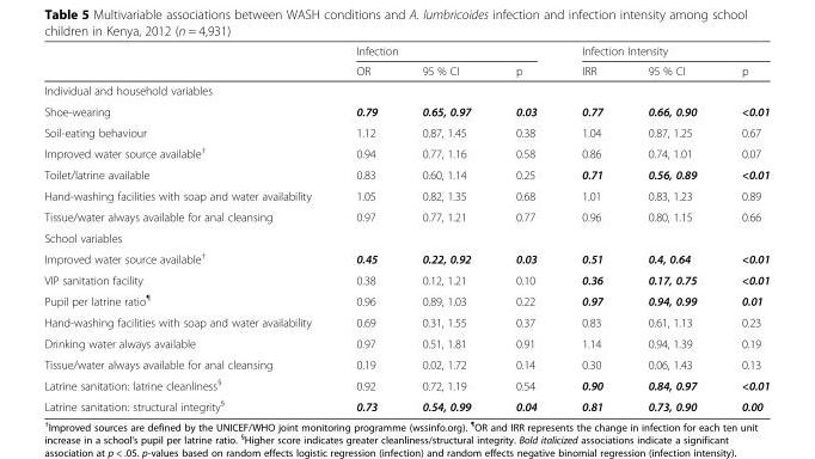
<table><thead><tr><td rowspan="2"></td><td colspan="3">Infection</td><td colspan="3">Infection Intensity</td></tr><tr><td>OR</td><td>95 % CI</td><td>p</td><td>IRR</td><td>95 % CI</td><td>p</td></tr></thead><tbody><tr><td colspan="7">Individual and household variables</td></tr><tr><td>Shoe-wearing</td><td>0.79</td><td>0.65, 0.97</td><td>0.03</td><td>0.77</td><td>0.66, 0.90</td><td>&lt;0.01</td></tr><tr><td>Soil-eating behaviour</td><td>1.12</td><td>0.87, 1.45</td><td>0.38</td><td>1.04</td><td>0.87, 1.25</td><td>0.67</td></tr><tr><td>Improved water source available<sup>†</sup></td><td>0.94</td><td>0.77, 1.16</td><td>0.58</td><td>0.86</td><td>0.74, 1.01</td><td>0.07</td></tr><tr><td>Toilet/latrine available</td><td>0.83</td><td>0.60, 1.14</td><td>0.25</td><td>0.71</td><td>0.56, 0.89</td><td>&lt;0.01</td></tr><tr><td>Hand-washing facilities with soap and water availability</td><td>1.05</td><td>0.82, 1.35</td><td>0.68</td><td>1.01</td><td>0.83, 1.23</td><td>0.89</td></tr><tr><td>Tissue/water always available for anal cleansing</td><td>0.97</td><td>0.77, 1.21</td><td>0.77</td><td>0.96</td><td>0.80, 1.15</td><td>0.66</td></tr><tr><td colspan="7">School variables</td></tr><tr><td>Improved water source available<sup>†</sup></td><td>0.45</td><td>0.22, 0.92</td><td>0.03</td><td>0.51</td><td>0.4, 0.64</td><td>&lt;0.01</td></tr><tr><td>VIP sanitation facility</td><td>0.38</td><td>0.12, 1.21</td><td>0.10</td><td>0.36</td><td>0.17, 0.75</td><td>&lt;0.01</td></tr><tr><td>Pupil per latrine ratio<sup>¶</sup></td><td>0.96</td><td>0.89, 1.03</td><td>0.22</td><td>0.97</td><td>0.94, 0.99</td><td>0.01</td></tr><tr><td>Hand-washing facilities with soap and water availability</td><td>0.69</td><td>0.31, 1.55</td><td>0.37</td><td>0.83</td><td>0.61, 1.13</td><td>0.23</td></tr><tr><td>Drinking water always available</td><td>0.97</td><td>0.51, 1.81</td><td>0.91</td><td>1.14</td><td>0.94, 1.39</td><td>0.19</td></tr><tr><td>Tissue/water always available for anal cleansing</td><td>0.19</td><td>0.02, 1.72</td><td>0.14</td><td>0.30</td><td>0.06, 1.43</td><td>0.13</td></tr><tr><td>Latrine sanitation: latrine cleanliness<sup>§</sup></td><td>0.92</td><td>0.72, 1.19</td><td>0.54</td><td>0.90</td><td>0.84, 0.97</td><td>&lt;0.01</td></tr><tr><td>Latrine sanitation: structural integrity<sup>§</sup></td><td>0.73</td><td>0.54, 0.99</td><td>0.04</td><td>0.81</td><td>0.73, 0.90</td><td>0.00</td></tr></tbody></table>